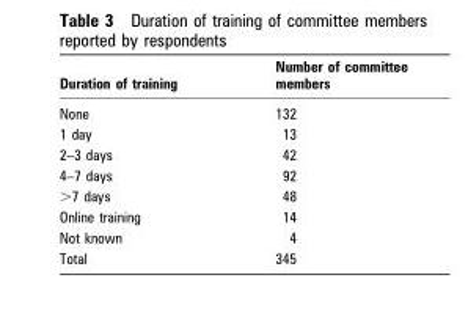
<table><thead><tr><td>Duration of training</td><td>Number of committee members</td></tr></thead><tbody><tr><td>None</td><td>132</td></tr><tr><td>1 day</td><td>13</td></tr><tr><td>2–3 days</td><td>42</td></tr><tr><td>4–7 days</td><td>92</td></tr><tr><td>&gt;7 days</td><td>48</td></tr><tr><td>Online training</td><td>14</td></tr><tr><td>Not known</td><td>4</td></tr><tr><td>Total</td><td>345</td></tr></tbody></table>